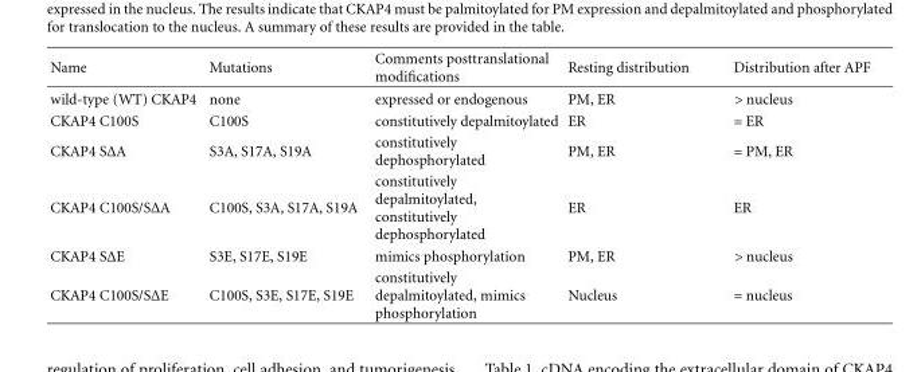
<table><thead><tr><td>Name</td><td>Mutations</td><td>Comments posttranslational modifications</td><td>Resting distribution</td><td>Distribution after APF</td></tr></thead><tbody><tr><td>wild-type (WT) CKAP4</td><td>none</td><td>expressed or endogenous</td><td>PM, ER</td><td>&gt; nucleus</td></tr><tr><td>CKAP4 C100S</td><td>C100S</td><td>constitutively depalmitoylated</td><td>ER</td><td>= ER</td></tr><tr><td>CKAP4 SΔA</td><td>S3A, S17A, S19A</td><td>constitutively dephosphorylated</td><td>PM, ER</td><td>= PM, ER</td></tr><tr><td>CKAP4 C100S/SΔA</td><td>C100S, S3A, S17A, S19A</td><td>constitutively depalmitoylated, constitutively dephosphorylated</td><td>ER</td><td>ER</td></tr><tr><td>CKAP4 SΔE</td><td>S3E, S17E, S19E</td><td>mimics phosphorylation</td><td>PM, ER</td><td>&gt; nucleus</td></tr><tr><td>CKAP4 C100S/SΔE</td><td>C100S, S3E, S17E, S19E</td><td>constitutively depalmitoylated, mimics phosphorylation</td><td>Nucleus</td><td>= nucleus</td></tr></tbody></table>